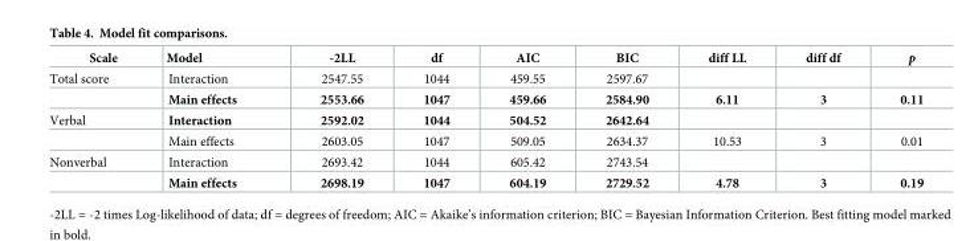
<table><thead><tr><td>Scale</td><td>Model</td><td>-2LL</td><td>df</td><td>AIC</td><td>BIC</td><td>diff LL</td><td>diff df</td><td>p</td></tr></thead><tbody><tr><td rowspan="2">Total score</td><td>Interaction</td><td>2547.55</td><td>1044</td><td>459.55</td><td>2597.67</td><td></td><td></td><td></td></tr><tr><td>Main effects</td><td>2553.66</td><td>1047</td><td>459.66</td><td>2584.90</td><td>6.11</td><td>3</td><td>0.11</td></tr><tr><td rowspan="2">Verbal</td><td>Interaction</td><td>2592.02</td><td>1044</td><td>504.52</td><td>2642.64</td><td></td><td></td><td></td></tr><tr><td>Main effects</td><td>2603.05</td><td>1047</td><td>509.05</td><td>2634.37</td><td>10.53</td><td>3</td><td>0.01</td></tr><tr><td rowspan="2">Nonverbal</td><td>Interaction</td><td>2693.42</td><td>1044</td><td>605.42</td><td>2743.54</td><td></td><td></td><td></td></tr><tr><td>Main effects</td><td>2698.19</td><td>1047</td><td>604.19</td><td>2729.52</td><td>4.78</td><td>3</td><td>0.19</td></tr></tbody></table>